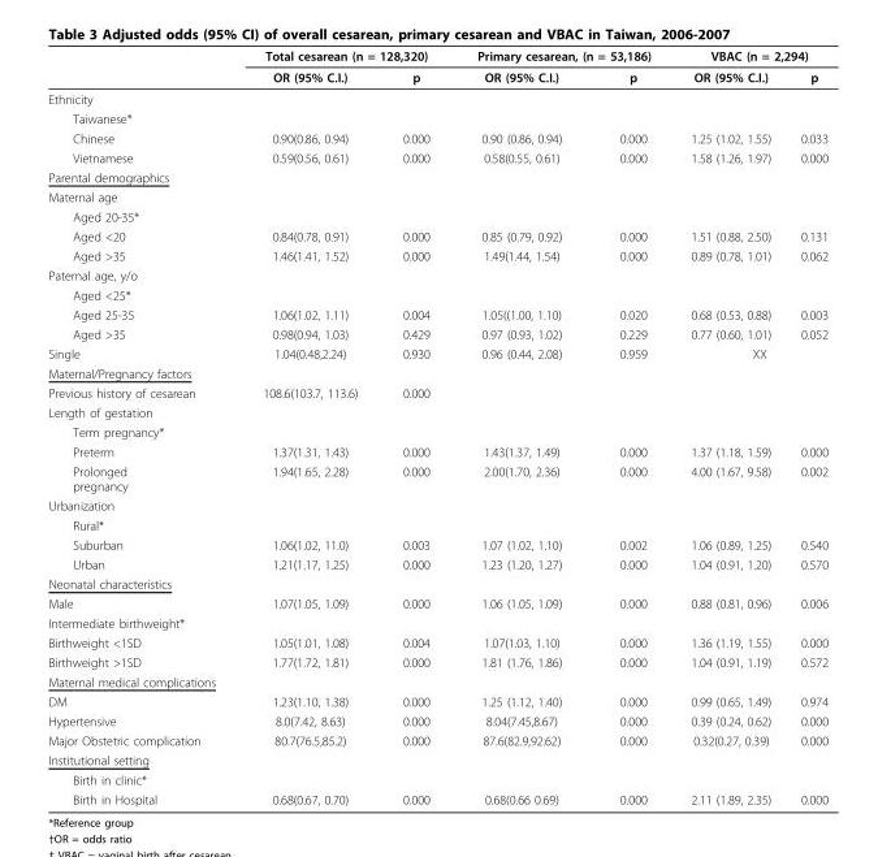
<table><thead><tr><td rowspan="2"></td><td colspan="2">Total cesarean (n = 128,320)</td><td colspan="2">Primary cesarean, (n = 53,186)</td><td colspan="2">VBAC (n = 2,294)</td></tr><tr><td>OR (95% C.I.)</td><td>p</td><td>OR (95% C.I.)</td><td>p</td><td>OR (95% C.I.)</td><td>p</td></tr></thead><tbody><tr><td colspan="7">Ethnicity</td></tr><tr><td colspan="7">Taiwanese*</td></tr><tr><td>Chinese</td><td>0.90(0.86, 0.94)</td><td>0.000</td><td>0.90 (0.86, 0.94)</td><td>0.000</td><td>1.25 (1.02, 1.55)</td><td>0.033</td></tr><tr><td>Vietnamese</td><td>0.59(0.56, 0.61)</td><td>0.000</td><td>0.58(0.55, 0.61)</td><td>0.000</td><td>1.58 (1.26, 1.97)</td><td>0.000</td></tr><tr><td colspan="7">Parental demographics</td></tr><tr><td colspan="7">Maternal age</td></tr><tr><td colspan="7">Aged 20-35*</td></tr><tr><td>Aged &lt;20</td><td>0.84(0.78, 0.91)</td><td>0.000</td><td>0.85 (0.79, 0.92)</td><td>0.000</td><td>1.51 (0.88, 2.50)</td><td>0.131</td></tr><tr><td>Aged &gt;35</td><td>1.46(1.41, 1.52)</td><td>0.000</td><td>1.49(1.44, 1.54)</td><td>0.000</td><td>0.89 (0.78, 1.01)</td><td>0.062</td></tr><tr><td colspan="7">Paternal age, y/o</td></tr><tr><td colspan="7">Aged &lt;25*</td></tr><tr><td>Aged 25-35</td><td>1.06(1.02, 1.11)</td><td>0.004</td><td>1.05((1.00, 1.10)</td><td>0.020</td><td>0.68 (0.53, 0.88)</td><td>0.003</td></tr><tr><td>Aged &gt;35</td><td>0.98(0.94, 1.03)</td><td>0.429</td><td>0.97 (0.93, 1.02)</td><td>0.229</td><td>0.77 (0.60, 1.01)</td><td>0.052</td></tr><tr><td>Single</td><td>1.04(0.48,2.24)</td><td>0.930</td><td>0.96 (0.44, 2.08)</td><td>0.959</td><td colspan="2">XX</td></tr><tr><td colspan="7">Maternal/Pregnancy factors</td></tr><tr><td>Previous history of cesarean</td><td>108.6(103.7, 113.6)</td><td>0.000</td><td></td><td></td><td></td><td></td></tr><tr><td colspan="7">Length of gestation</td></tr><tr><td colspan="7">Term pregnancy*</td></tr><tr><td>Preterm</td><td>1.37(1.31, 1.43)</td><td>0.000</td><td>1.43(1.37, 1.49)</td><td>0.000</td><td>1.37 (1.18, 1.59)</td><td>0.000</td></tr><tr><td>Prolonged pregnancy</td><td>1.94(1.65, 2.28)</td><td>0.000</td><td>2.00(1.70, 2.36)</td><td>0.000</td><td>4.00 (1.67, 9.58)</td><td>0.002</td></tr><tr><td colspan="7">Urbanization</td></tr><tr><td colspan="7">Rural*</td></tr><tr><td>Suburban</td><td>1.06(1.02, 11.0)</td><td>0.003</td><td>1.07 (1.02, 1.10)</td><td>0.002</td><td>1.06 (0.89, 1.25)</td><td>0.540</td></tr><tr><td>Urban</td><td>1.21(1.17, 1.25)</td><td>0.000</td><td>1.23 (1.20, 1.27)</td><td>0.000</td><td>1.04 (0.91, 1.20)</td><td>0.570</td></tr><tr><td colspan="7">Neonatal characteristics</td></tr><tr><td>Male</td><td>1.07(1.05, 1.09)</td><td>0.000</td><td>1.06 (1.05, 1.09)</td><td>0.000</td><td>0.88 (0.81, 0.96)</td><td>0.006</td></tr><tr><td colspan="7">Intermediate birthweight*</td></tr><tr><td>Birthweight &lt;1SD</td><td>1.05(1.01, 1.08)</td><td>0.004</td><td>1.07(1.03, 1.10)</td><td>0.000</td><td>1.36 (1.19, 1.55)</td><td>0.000</td></tr><tr><td>Birthweight &gt;1SD</td><td>1.77(1.72, 1.81)</td><td>0.000</td><td>1.81 (1.76, 1.86)</td><td>0.000</td><td>1.04 (0.91, 1.19)</td><td>0.572</td></tr><tr><td colspan="7">Maternal medical complications</td></tr><tr><td>DM</td><td>1.23(1.10, 1.38)</td><td>0.000</td><td>1.25 (1.12, 1.40)</td><td>0.000</td><td>0.99 (0.65, 1.49)</td><td>0.974</td></tr><tr><td>Hypertensive</td><td>8.0(7.42, 8.63)</td><td>0.000</td><td>8.04(7.45,8.67)</td><td>0.000</td><td>0.39 (0.24, 0.62)</td><td>0.000</td></tr><tr><td>Major Obstetric complication</td><td>80.7(76.5,85.2)</td><td>0.000</td><td>87.6(82.9,92.62)</td><td>0.000</td><td>0.32(0.27, 0.39)</td><td>0.000</td></tr><tr><td colspan="7">Institutional setting</td></tr><tr><td colspan="7">Birth in clinic*</td></tr><tr><td>Birth in Hospital</td><td>0.68(0.67, 0.70)</td><td>0.000</td><td>0.68(0.66 0.69)</td><td>0.000</td><td>2.11 (1.89, 2.35)</td><td>0.000</td></tr></tbody></table>